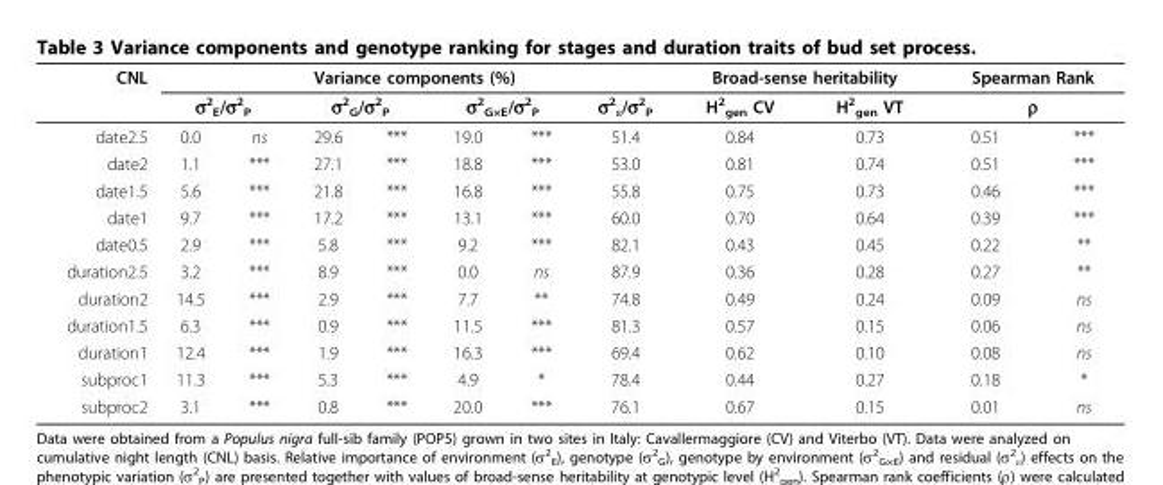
<table><thead><tr><td rowspan="3">CNL date2.5</td><td colspan="7">Variance components (%)</td><td colspan="2">Broad-sense heritability</td><td rowspan="2" colspan="2">Spearman Rank ρ</td></tr><tr><td colspan="2">σ<sup>2</sup> <sub>E</sub>/σ<sup>2</sup> <sub>P</sub></td><td colspan="2">σ<sup>2</sup> <sub>G</sub>/σ<sup>2</sup> <sub>P</sub></td><td colspan="2">σ<sup>2</sup> <sub>G×E</sub>/σ<sup>2</sup> <sub>P</sub></td><td rowspan="2">σ<sup>2</sup> <sub>ε</sub>/σ<sup>2</sup> <sub>P</sub> 51.4</td><td rowspan="2">H<sup>2</sup> <sub>gen</sub> CV 0.84</td><td rowspan="2">H<sup>2</sup> <sub>gen</sub> VT 0.73</td></tr><tr><td>0.0</td><td>ns</td><td>29.6</td><td>***</td><td>19.0</td><td>***</td><td>0.51</td><td>***</td></tr></thead><tbody><tr><td>date2</td><td>1.1</td><td>***</td><td>27.1</td><td>***</td><td>18.8</td><td>***</td><td>53.0</td><td>0.81</td><td>0.74</td><td>0.51</td><td>***</td></tr><tr><td>date1.5</td><td>5.6</td><td>***</td><td>21.8</td><td>***</td><td>16.8</td><td>***</td><td>55.8</td><td>0.75</td><td>0.73</td><td>0.46</td><td>***</td></tr><tr><td>date1</td><td>9.7</td><td>***</td><td>17.2</td><td>***</td><td>13.1</td><td>***</td><td>60.0</td><td>0.70</td><td>0.64</td><td>0.39</td><td>***</td></tr><tr><td>date0.5</td><td>2.9</td><td>***</td><td>5.8</td><td>***</td><td>9.2</td><td>***</td><td>82.1</td><td>0.43</td><td>0.45</td><td>0.22</td><td>**</td></tr><tr><td>duration2.5</td><td>3.2</td><td>***</td><td>8.9</td><td>***</td><td>0.0</td><td>ns</td><td>87.9</td><td>0.36</td><td>0.28</td><td>0.27</td><td>**</td></tr><tr><td>duration2</td><td>14.5</td><td>***</td><td>2.9</td><td>***</td><td>7.7</td><td>**</td><td>74.8</td><td>0.49</td><td>0.24</td><td>0.09</td><td>ns</td></tr><tr><td>duration1.5</td><td>6.3</td><td>***</td><td>0.9</td><td>***</td><td>11.5</td><td>***</td><td>81.3</td><td>0.57</td><td>0.15</td><td>0.06</td><td>ns</td></tr><tr><td>duration1</td><td>12.4</td><td>***</td><td>1.9</td><td>***</td><td>16.3</td><td>***</td><td>69.4</td><td>0.62</td><td>0.10</td><td>0.08</td><td>ns</td></tr><tr><td>subproc1</td><td>11.3</td><td>***</td><td>5.3</td><td>***</td><td>4.9</td><td>*</td><td>78.4</td><td>0.44</td><td>0.27</td><td>0.18</td><td>*</td></tr><tr><td>subproc2</td><td>3.1</td><td>***</td><td>0.8</td><td>***</td><td>20.0</td><td>***</td><td>76.1</td><td>0.67</td><td>0.15</td><td>0.01</td><td>ns</td></tr></tbody></table>